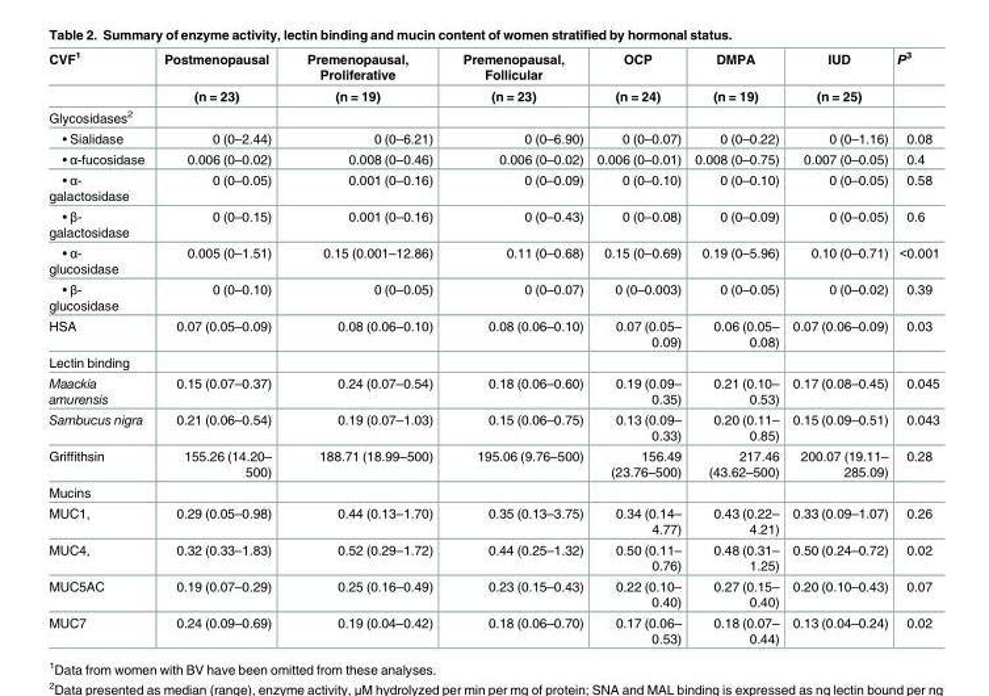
<table><thead><tr><td rowspan="2">CVF<sup>1</sup></td><td rowspan="2">Postmenopausal (n = 23)</td><td rowspan="2">Premenopausal, Proliferative (n = 19)</td><td rowspan="2">Premenopausal, Follicular (n = 23)</td><td rowspan="2">OCP (n = 24)</td><td rowspan="2">DMPA (n = 19)</td><td rowspan="2">IUD (n = 25)</td><td rowspan="2">P<sup>3</sup></td></tr><tr></tr></thead><tbody><tr><td colspan="8">Glycosidases<sup>2</sup></td></tr><tr><td>• Sialidase</td><td>0 (0–2.44)</td><td>0 (0–6.21)</td><td>0 (0–6.90)</td><td>0 (0–0.07)</td><td>0 (0–0.22)</td><td>0 (0–1.16)</td><td>0.08</td></tr><tr><td>• α-fucosidase</td><td>0.006 (0–0.02)</td><td>0.008 (0–0.46)</td><td>0.006 (0–0.02)</td><td>0.006 (0–0.01)</td><td>0.008 (0–0.75)</td><td>0.007 (0–0.05)</td><td>0.4</td></tr><tr><td>• α- galactosidase</td><td>0 (0–0.05)</td><td>0.001 (0–0.16)</td><td>0 (0–0.09)</td><td>0 (0–0.10)</td><td>0 (0–0.10)</td><td>0 (0–0.05)</td><td>0.58</td></tr><tr><td>• β- galactosidase</td><td>0 (0–0.15)</td><td>0.001 (0–0.16)</td><td>0 (0–0.43)</td><td>0 (0–0.08)</td><td>0 (0–0.09)</td><td>0 (0–0.05)</td><td>0.6</td></tr><tr><td>• α- glucosidase</td><td>0.005 (0–1.51)</td><td>0.15 (0.001–12.86)</td><td>0.11 (0–0.68)</td><td>0.15 (0–0.69)</td><td>0.19 (0–5.96)</td><td>0.10 (0–0.71)</td><td>&lt;0.001</td></tr><tr><td>• β- glucosidase</td><td>0 (0–0.10)</td><td>0 (0–0.05)</td><td>0 (0–0.07)</td><td>0 (0–0.003)</td><td>0 (0–0.05)</td><td>0 (0–0.02)</td><td>0.39</td></tr><tr><td>HSA</td><td>0.07 (0.05–0.09)</td><td>0.08 (0.06–0.10)</td><td>0.08 (0.06–0.10)</td><td>0.07 (0.05– 0.09)</td><td>0.06 (0.05– 0.08)</td><td>0.07 (0.06–0.09)</td><td>0.03</td></tr><tr><td colspan="8">Lectin binding</td></tr><tr><td>Maackia amurensis</td><td>0.15 (0.07–0.37)</td><td>0.24 (0.07–0.54)</td><td>0.18 (0.06–0.60)</td><td>0.19 (0.09– 0.35)</td><td>0.21 (0.10– 0.53)</td><td>0.17 (0.08–0.45)</td><td>0.045</td></tr><tr><td>Sambucus nigra</td><td>0.21 (0.06–0.54)</td><td>0.19 (0.07–1.03)</td><td>0.15 (0.06–0.75)</td><td>0.13 (0.09– 0.33)</td><td>0.20 (0.11– 0.85)</td><td>0.15 (0.09–0.51)</td><td>0.043</td></tr><tr><td>Griffithsin</td><td>155.26 (14.20– 500)</td><td>188.71 (18.99–500)</td><td>195.06 (9.76–500)</td><td>156.49 (23.76–500)</td><td>217.46 (43.62–500)</td><td>200.07 (19.11– 285.09)</td><td>0.28</td></tr><tr><td colspan="8">Mucins</td></tr><tr><td>MUC1,</td><td>0.29 (0.05–0.98)</td><td>0.44 (0.13–1.70)</td><td>0.35 (0.13–3.75)</td><td>0.34 (0.14– 4.77)</td><td>0.43 (0.22– 4.21)</td><td>0.33 (0.09–1.07)</td><td>0.26</td></tr><tr><td>MUC4,</td><td>0.32 (0.33–1.83)</td><td>0.52 (0.29–1.72)</td><td>0.44 (0.25–1.32)</td><td>0.50 (0.11– 0.76)</td><td>0.48 (0.31– 1.25)</td><td>0.50 (0.24–0.72)</td><td>0.02</td></tr><tr><td>MUC5AC</td><td>0.19 (0.07–0.29)</td><td>0.25 (0.16–0.49)</td><td>0.23 (0.15–0.43)</td><td>0.22 (0.10– 0.40)</td><td>0.27 (0.15– 0.40)</td><td>0.20 (0.10–0.43)</td><td>0.07</td></tr><tr><td>MUC7</td><td>0.24 (0.09–0.69)</td><td>0.19 (0.04–0.42)</td><td>0.18 (0.06–0.70)</td><td>0.17 (0.06– 0.53)</td><td>0.18 (0.07– 0.44)</td><td>0.13 (0.04–0.24)</td><td>0.02</td></tr></tbody></table>